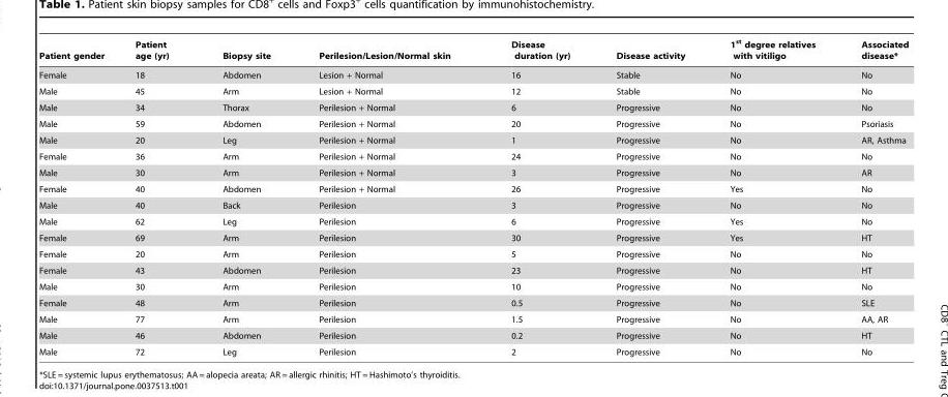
<table><thead><tr><td>Patient gender</td><td>Patient age (yr)</td><td>Biopsy site</td><td>Perilesion/Lesion/Normal skin</td><td>Disease duration (yr)</td><td>Disease activity</td><td>1<sup>st</sup> degree relatives with vitiligo</td><td>Associated disease*</td></tr></thead><tbody><tr><td>Female</td><td>18</td><td>Abdomen</td><td>Lesion + Normal</td><td>16</td><td>Stable</td><td>No</td><td>No</td></tr><tr><td>Male</td><td>45</td><td>Arm</td><td>Lesion + Normal</td><td>12</td><td>Stable</td><td>No</td><td>No</td></tr><tr><td>Male</td><td>34</td><td>Thorax</td><td>Perilesion + Normal</td><td>6</td><td>Progressive</td><td>No</td><td>No</td></tr><tr><td>Male</td><td>59</td><td>Abdomen</td><td>Perilesion + Normal</td><td>20</td><td>Progressive</td><td>No</td><td>Psoriasis</td></tr><tr><td>Male</td><td>20</td><td>Leg</td><td>Perilesion + Normal</td><td>1</td><td>Progressive</td><td>No</td><td>AR, Asthma</td></tr><tr><td>Female</td><td>36</td><td>Arm</td><td>Perilesion + Normal</td><td>24</td><td>Progressive</td><td>No</td><td>No</td></tr><tr><td>Male</td><td>30</td><td>Arm</td><td>Perilesion + Normal</td><td>3</td><td>Progressive</td><td>No</td><td>AR</td></tr><tr><td>Female</td><td>40</td><td>Abdomen</td><td>Perilesion + Normal</td><td>26</td><td>Progressive</td><td>Yes</td><td>No</td></tr><tr><td>Male</td><td>40</td><td>Back</td><td>Perilesion</td><td>3</td><td>Progressive</td><td>No</td><td>No</td></tr><tr><td>Male</td><td>62</td><td>Leg</td><td>Perilesion</td><td>6</td><td>Progressive</td><td>Yes</td><td>No</td></tr><tr><td>Female</td><td>69</td><td>Arm</td><td>Perilesion</td><td>30</td><td>Progressive</td><td>Yes</td><td>HT</td></tr><tr><td>Female</td><td>20</td><td>Arm</td><td>Perilesion</td><td>5</td><td>Progressive</td><td>No</td><td>No</td></tr><tr><td>Female</td><td>43</td><td>Abdomen</td><td>Perilesion</td><td>23</td><td>Progressive</td><td>No</td><td>HT</td></tr><tr><td>Male</td><td>30</td><td>Arm</td><td>Perilesion</td><td>10</td><td>Progressive</td><td>No</td><td>No</td></tr><tr><td>Female</td><td>48</td><td>Arm</td><td>Perilesion</td><td>0.5</td><td>Progressive</td><td>No</td><td>SLE</td></tr><tr><td>Male</td><td>77</td><td>Arm</td><td>Perilesion</td><td>1.5</td><td>Progressive</td><td>No</td><td>AA, AR</td></tr><tr><td>Male</td><td>46</td><td>Abdomen</td><td>Perilesion</td><td>0.2</td><td>Progressive</td><td>No</td><td>HT</td></tr><tr><td>Male</td><td>72</td><td>Leg</td><td>Perilesion</td><td>2</td><td>Progressive</td><td>No</td><td>No</td></tr></tbody></table>